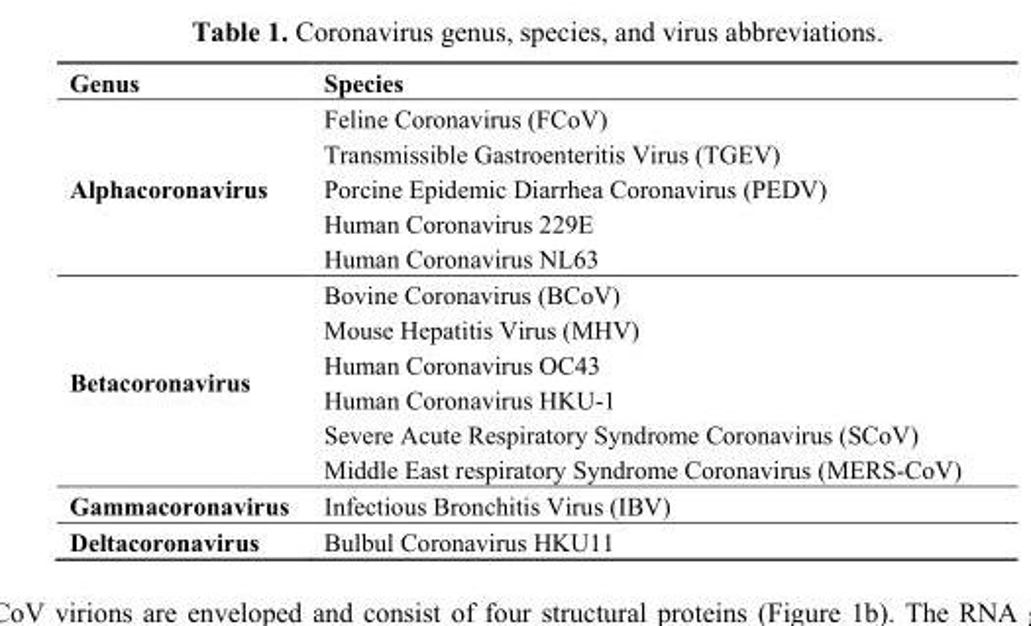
<table><thead><tr><td>Genus</td><td>Species</td></tr></thead><tbody><tr><td rowspan="5">Alphacoronavirus</td><td>Feline Coronavirus (FCoV)</td></tr><tr><td>Transmissible Gastroenteritis Virus (TGEV)</td></tr><tr><td>Porcine Epidemic Diarrhea Coronavirus (PEDV)</td></tr><tr><td>Human Coronavirus 229E</td></tr><tr><td>Human Coronavirus NL63</td></tr><tr><td rowspan="6">Betacoronavirus</td><td>Bovine Coronavirus (BCoV)</td></tr><tr><td>Mouse Hepatitis Virus (MHV)</td></tr><tr><td>Human Coronavirus OC43</td></tr><tr><td>Human Coronavirus HKU-1</td></tr><tr><td>Severe Acute Respiratory Syndrome Coronavirus (SCoV)</td></tr><tr><td>Middle East respiratory Syndrome Coronavirus (MERS-CoV)</td></tr><tr><td>Gammacoronavirus</td><td>Infectious Bronchitis Virus (IBV)</td></tr><tr><td>Deltacoronavirus</td><td>Bulbul Coronavirus HKU11</td></tr></tbody></table>